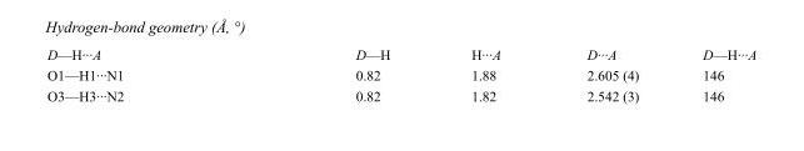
<table><tbody><tr><td>D—H···A</td><td>D—H</td><td>H···A</td><td>D···A</td><td>D—H···A</td></tr><tr><td>O1—H1···N1</td><td>0.82</td><td>1.88</td><td>2.605 (4)</td><td>146</td></tr><tr><td>O3—H3···N2</td><td>0.82</td><td>1.82</td><td>2.542 (3)</td><td>146</td></tr></tbody></table>